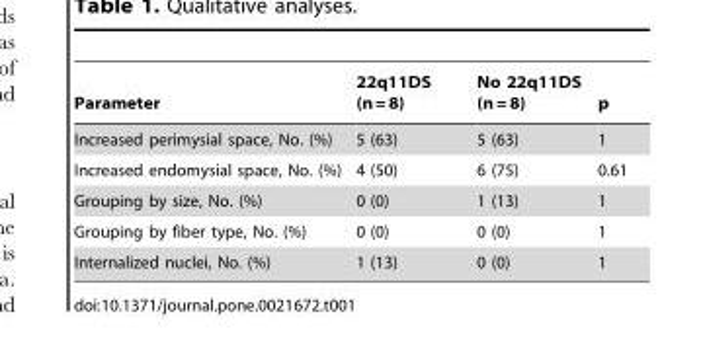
<table><thead><tr><td>Parameter</td><td>22q11DS (n = 8)</td><td>No 22q11DS (n = 8)</td><td>p</td></tr></thead><tbody><tr><td>Increased perimysial space, No. (%)</td><td>5 (63)</td><td>5 (63)</td><td>1</td></tr><tr><td>Increased endomysial space, No. (%)</td><td>4 (50)</td><td>6 (75)</td><td>0.61</td></tr><tr><td>Grouping by size, No. (%)</td><td>0 (0)</td><td>1 (13)</td><td>1</td></tr><tr><td>Grouping by fiber type, No. (%)</td><td>0 (0)</td><td>0 (0)</td><td>1</td></tr><tr><td>Internalized nuclei, No. (%)</td><td>1 (13)</td><td>0 (0)</td><td>1</td></tr></tbody></table>